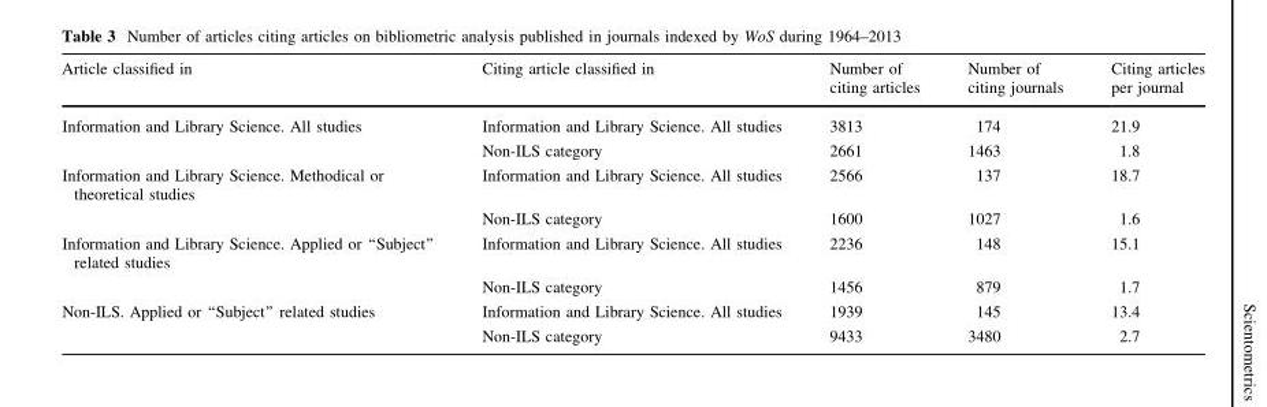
<table><thead><tr><td>Article classified in</td><td>Citing article classified in</td><td>Number of citing articles</td><td>Number of citing journals</td><td>Citing articles per journal</td></tr></thead><tbody><tr><td rowspan="2">Information and Library Science. All studies</td><td>Information and Library Science. All studies</td><td>3813</td><td>174</td><td>21.9</td></tr><tr><td>Non-ILS category</td><td>2661</td><td>1463</td><td>1.8</td></tr><tr><td rowspan="2">Information and Library Science. Methodical or theoretical studies</td><td>Information and Library Science. All studies</td><td>2566</td><td>137</td><td>18.7</td></tr><tr><td>Non-ILS category</td><td>1600</td><td>1027</td><td>1.6</td></tr><tr><td rowspan="2">Information and Library Science. Applied or ‘‘Subject’’ related studies</td><td>Information and Library Science. All studies</td><td>2236</td><td>148</td><td>15.1</td></tr><tr><td>Non-ILS category</td><td>1456</td><td>879</td><td>1.7</td></tr><tr><td rowspan="2">Non-ILS. Applied or ‘‘Subject’’ related studies</td><td>Information and Library Science. All studies</td><td>1939</td><td>145</td><td>13.4</td></tr><tr><td>Non-ILS category</td><td>9433</td><td>3480</td><td>2.7</td></tr></tbody></table>